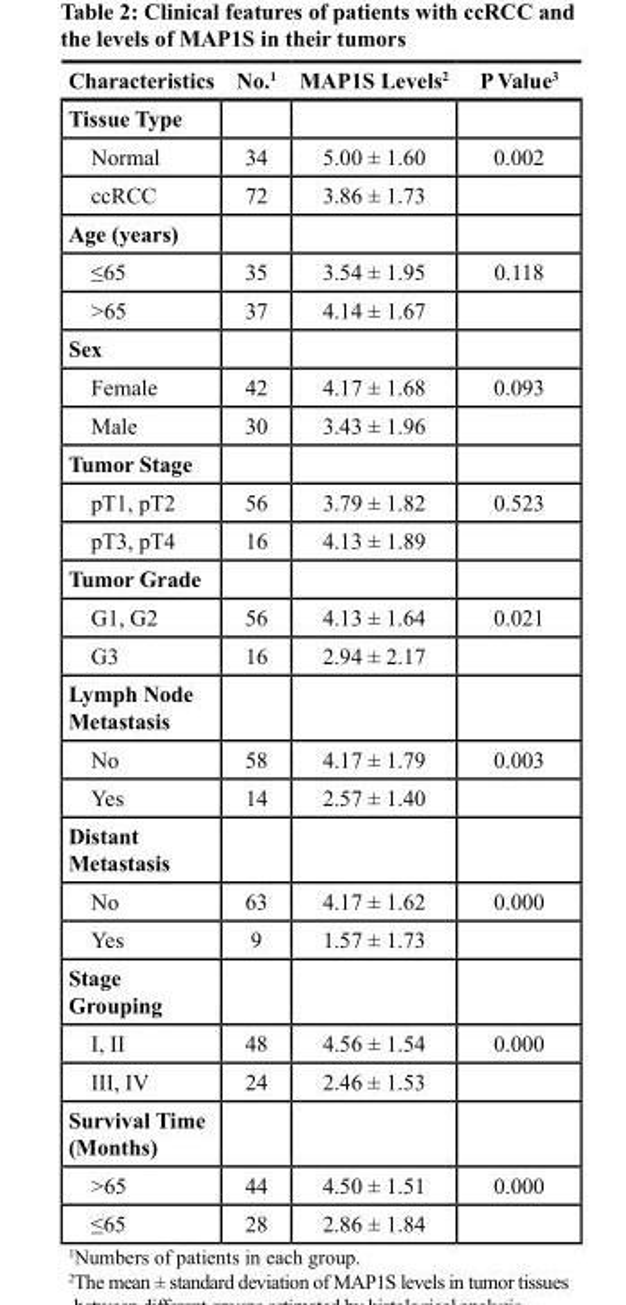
<table><thead><tr><td>Characteristics</td><td>No.<sup>1</sup></td><td>MAP1S Levels<sup>2</sup></td><td>P Value<sup>3</sup></td></tr></thead><tbody><tr><td colspan="4">Tissue Type</td></tr><tr><td>Normal</td><td>34</td><td>5.00 ± 1.60</td><td>0.002</td></tr><tr><td>ccRCC</td><td>72</td><td>3.86 ± 1.73</td><td></td></tr><tr><td colspan="4">Age (years)</td></tr><tr><td>≤65</td><td>35</td><td>3.54 ± 1.95</td><td>0.118</td></tr><tr><td>&gt;65</td><td>37</td><td>4.14 ± 1.67</td><td></td></tr><tr><td colspan="4">Sex</td></tr><tr><td>Female</td><td>42</td><td>4.17 ± 1.68</td><td>0.093</td></tr><tr><td>Male</td><td>30</td><td>3.43 ± 1.96</td><td></td></tr><tr><td colspan="4">Tumor Stage</td></tr><tr><td>pT1, pT2</td><td>56</td><td>3.79 ± 1.82</td><td>0.523</td></tr><tr><td>pT3, pT4</td><td>16</td><td>4.13 ± 1.89</td><td></td></tr><tr><td colspan="4">Tumor Grade</td></tr><tr><td>G1, G2</td><td>56</td><td>4.13 ± 1.64</td><td>0.021</td></tr><tr><td>G3</td><td>16</td><td>2.94 ± 2.17</td><td></td></tr><tr><td colspan="4">Lymph Node Metastasis</td></tr><tr><td>No</td><td>58</td><td>4.17 ± 1.79</td><td>0.003</td></tr><tr><td>Yes</td><td>14</td><td>2.57 ± 1.40</td><td></td></tr><tr><td colspan="4">Distant Metastasis</td></tr><tr><td>No</td><td>63</td><td>4.17 ± 1.62</td><td>0.000</td></tr><tr><td>Yes</td><td>9</td><td>1.57 ± 1.73</td><td></td></tr><tr><td colspan="4">Stage Grouping</td></tr><tr><td>I, II</td><td>48</td><td>4.56 ± 1.54</td><td>0.000</td></tr><tr><td>III, IV</td><td>24</td><td>2.46 ± 1.53</td><td></td></tr><tr><td colspan="4">Survival Time (Months)</td></tr><tr><td>&gt;65</td><td>44</td><td>4.50 ± 1.51</td><td>0.000</td></tr><tr><td>≤65</td><td>28</td><td>2.86 ± 1.84</td><td></td></tr></tbody></table>